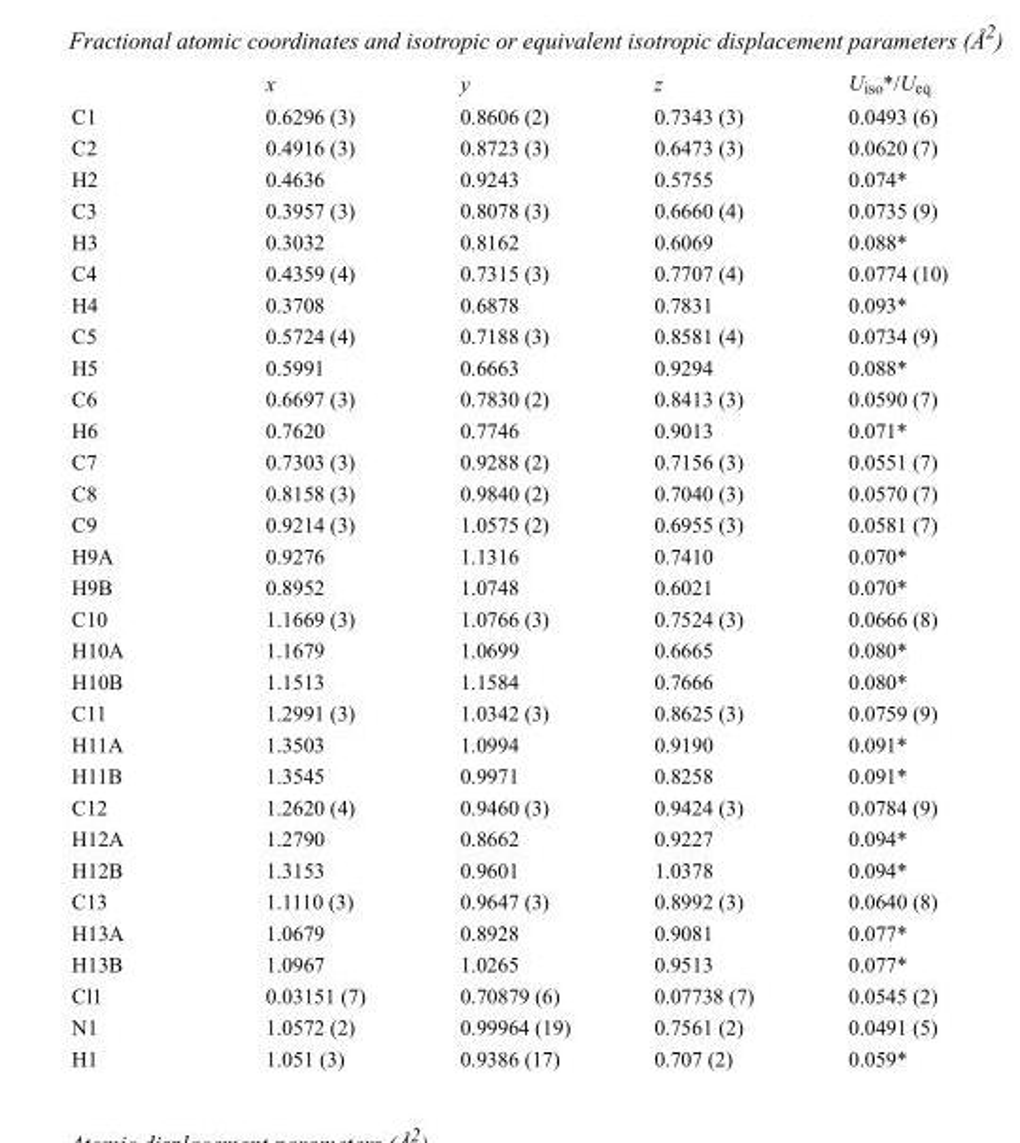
<table><thead><tr><td></td><td>x</td><td>y</td><td>z</td><td>U<sub>iso</sub>*/U<sub>eq</sub></td></tr></thead><tbody><tr><td>C1</td><td>0.6296 (3)</td><td>0.8606 (2)</td><td>0.7343 (3)</td><td>0.0493 (6)</td></tr><tr><td>C2</td><td>0.4916 (3)</td><td>0.8723 (3)</td><td>0.6473 (3)</td><td>0.0620 (7)</td></tr><tr><td>H2</td><td>0.4636</td><td>0.9243</td><td>0.5755</td><td>0.074*</td></tr><tr><td>C3</td><td>0.3957 (3)</td><td>0.8078 (3)</td><td>0.6660 (4)</td><td>0.0735 (9)</td></tr><tr><td>H3</td><td>0.3032</td><td>0.8162</td><td>0.6069</td><td>0.088*</td></tr><tr><td>C4</td><td>0.4359 (4)</td><td>0.7315 (3)</td><td>0.7707 (4)</td><td>0.0774 (10)</td></tr><tr><td>H4</td><td>0.3708</td><td>0.6878</td><td>0.7831</td><td>0.093*</td></tr><tr><td>C5</td><td>0.5724 (4)</td><td>0.7188 (3)</td><td>0.8581 (4)</td><td>0.0734 (9)</td></tr><tr><td>H5</td><td>0.5991</td><td>0.6663</td><td>0.9294</td><td>0.088*</td></tr><tr><td>C6</td><td>0.6697 (3)</td><td>0.7830 (2)</td><td>0.8413 (3)</td><td>0.0590 (7)</td></tr><tr><td>H6</td><td>0.7620</td><td>0.7746</td><td>0.9013</td><td>0.071*</td></tr><tr><td>C7</td><td>0.7303 (3)</td><td>0.9288 (2)</td><td>0.7156 (3)</td><td>0.0551 (7)</td></tr><tr><td>C8</td><td>0.8158 (3)</td><td>0.9840 (2)</td><td>0.7040 (3)</td><td>0.0570 (7)</td></tr><tr><td>C9</td><td>0.9214 (3)</td><td>1.0575 (2)</td><td>0.6955 (3)</td><td>0.0581 (7)</td></tr><tr><td>H9A</td><td>0.9276</td><td>1.1316</td><td>0.7410</td><td>0.070*</td></tr><tr><td>H9B</td><td>0.8952</td><td>1.0748</td><td>0.6021</td><td>0.070*</td></tr><tr><td>C10</td><td>1.1669 (3)</td><td>1.0766 (3)</td><td>0.7524 (3)</td><td>0.0666 (8)</td></tr><tr><td>H10A</td><td>1.1679</td><td>1.0699</td><td>0.6665</td><td>0.080*</td></tr><tr><td>H10B</td><td>1.1513</td><td>1.1584</td><td>0.7666</td><td>0.080*</td></tr><tr><td>C11</td><td>1.2991 (3)</td><td>1.0342 (3)</td><td>0.8625 (3)</td><td>0.0759 (9)</td></tr><tr><td>H11A</td><td>1.3503</td><td>1.0994</td><td>0.9190</td><td>0.091*</td></tr><tr><td>H11B</td><td>1.3545</td><td>0.9971</td><td>0.8258</td><td>0.091*</td></tr><tr><td>C12</td><td>1.2620 (4)</td><td>0.9460 (3)</td><td>0.9424 (3)</td><td>0.0784 (9)</td></tr><tr><td>H12A</td><td>1.2790</td><td>0.8662</td><td>0.9227</td><td>0.094*</td></tr><tr><td>H12B</td><td>1.3153</td><td>0.9601</td><td>1.0378</td><td>0.094*</td></tr><tr><td>C13</td><td>1.1110 (3)</td><td>0.9647 (3)</td><td>0.8992 (3)</td><td>0.0640 (8)</td></tr><tr><td>H13A</td><td>1.0679</td><td>0.8928</td><td>0.9081</td><td>0.077*</td></tr><tr><td>H13B</td><td>1.0967</td><td>1.0265</td><td>0.9513</td><td>0.077*</td></tr><tr><td>Cl1</td><td>0.03151 (7)</td><td>0.70879 (6)</td><td>0.07738 (7)</td><td>0.0545 (2)</td></tr><tr><td>N1</td><td>1.0572 (2)</td><td>0.99964 (19)</td><td>0.7561 (2)</td><td>0.0491 (5)</td></tr><tr><td>H1</td><td>1.051 (3)</td><td>0.9386 (17)</td><td>0.707 (2)</td><td>0.059*</td></tr></tbody></table>